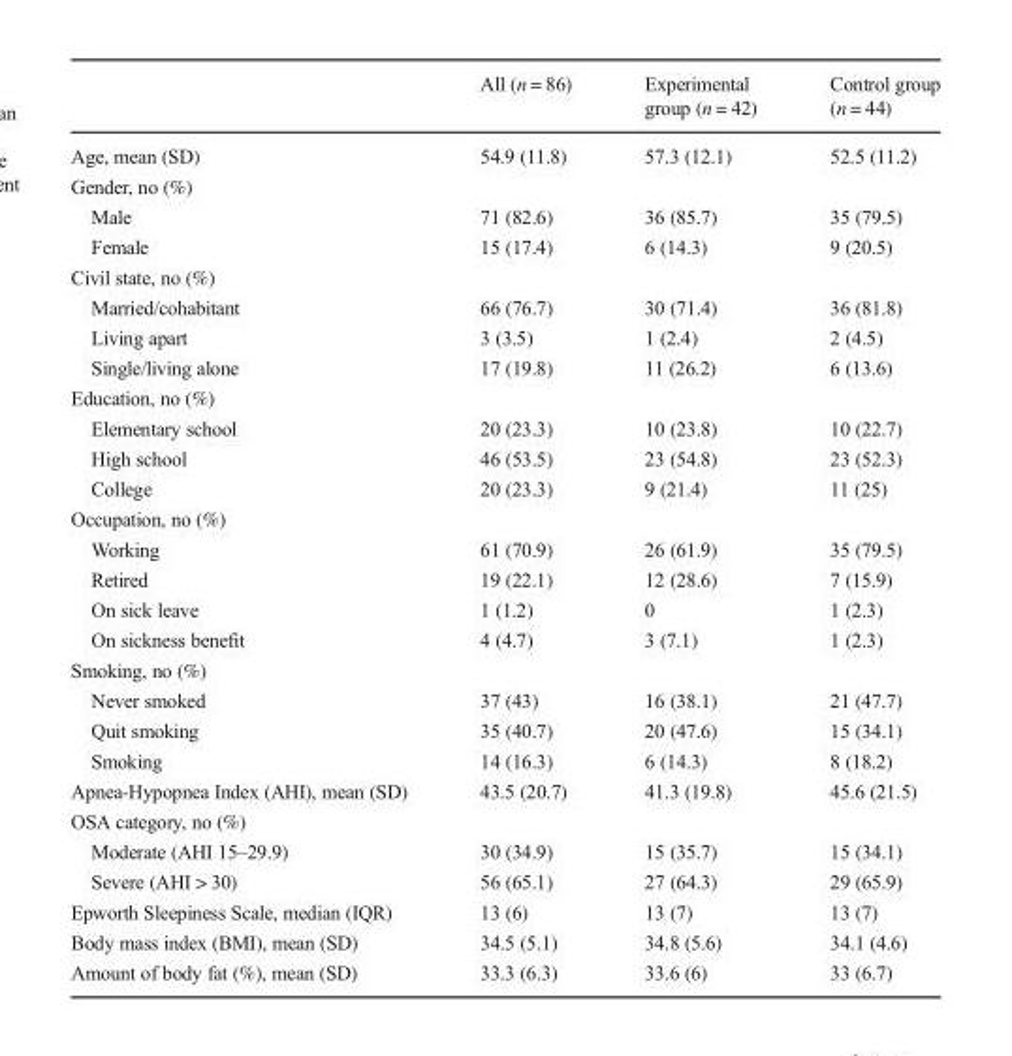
<table><thead><tr><td></td><td>All (n = 86)</td><td>Experimental group (n = 42)</td><td>Control group (n = 44)</td></tr></thead><tbody><tr><td>Age, mean (SD)</td><td>54.9 (11.8)</td><td>57.3 (12.1)</td><td>52.5 (11.2)</td></tr><tr><td colspan="4">Gender, no (%)</td></tr><tr><td>Male</td><td>71 (82.6)</td><td>36 (85.7)</td><td>35 (79.5)</td></tr><tr><td>Female</td><td>15 (17.4)</td><td>6 (14.3)</td><td>9 (20.5)</td></tr><tr><td colspan="4">Civil state, no (%)</td></tr><tr><td>Married/cohabitant</td><td>66 (76.7)</td><td>30 (71.4)</td><td>36 (81.8)</td></tr><tr><td>Living apart</td><td>3 (3.5)</td><td>1 (2.4)</td><td>2 (4.5)</td></tr><tr><td>Single/living alone</td><td>17 (19.8)</td><td>11 (26.2)</td><td>6 (13.6)</td></tr><tr><td colspan="4">Education, no (%)</td></tr><tr><td>Elementary school</td><td>20 (23.3)</td><td>10 (23.8)</td><td>10 (22.7)</td></tr><tr><td>High school</td><td>46 (53.5)</td><td>23 (54.8)</td><td>23 (52.3)</td></tr><tr><td>College</td><td>20 (23.3)</td><td>9 (21.4)</td><td>11 (25)</td></tr><tr><td colspan="4">Occupation, no (%)</td></tr><tr><td>Working</td><td>61 (70.9)</td><td>26 (61.9)</td><td>35 (79.5)</td></tr><tr><td>Retired</td><td>19 (22.1)</td><td>12 (28.6)</td><td>7 (15.9)</td></tr><tr><td>On sick leave</td><td>1 (1.2)</td><td>0</td><td>1 (2.3)</td></tr><tr><td>On sickness benefit</td><td>4 (4.7)</td><td>3 (7.1)</td><td>1 (2.3)</td></tr><tr><td colspan="4">Smoking, no (%)</td></tr><tr><td>Never smoked</td><td>37 (43)</td><td>16 (38.1)</td><td>21 (47.7)</td></tr><tr><td>Quit smoking</td><td>35 (40.7)</td><td>20 (47.6)</td><td>15 (34.1)</td></tr><tr><td>Smoking</td><td>14 (16.3)</td><td>6 (14.3)</td><td>8 (18.2)</td></tr><tr><td>Apnea-Hypopnea Index (AHI), mean (SD)</td><td>43.5 (20.7)</td><td>41.3 (19.8)</td><td>45.6 (21.5)</td></tr><tr><td colspan="4">OSA category, no (%)</td></tr><tr><td>Moderate (AHI 15–29.9)</td><td>30 (34.9)</td><td>15 (35.7)</td><td>15 (34.1)</td></tr><tr><td>Severe (AHI &gt; 30)</td><td>56 (65.1)</td><td>27 (64.3)</td><td>29 (65.9)</td></tr><tr><td>Epworth Sleepiness Scale, median (IQR)</td><td>13 (6)</td><td>13 (7)</td><td>13 (7)</td></tr><tr><td>Body mass index (BMI), mean (SD)</td><td>34.5 (5.1)</td><td>34.8 (5.6)</td><td>34.1 (4.6)</td></tr><tr><td>Amount of body fat (%), mean (SD)</td><td>33.3 (6.3)</td><td>33.6 (6)</td><td>33 (6.7)</td></tr></tbody></table>